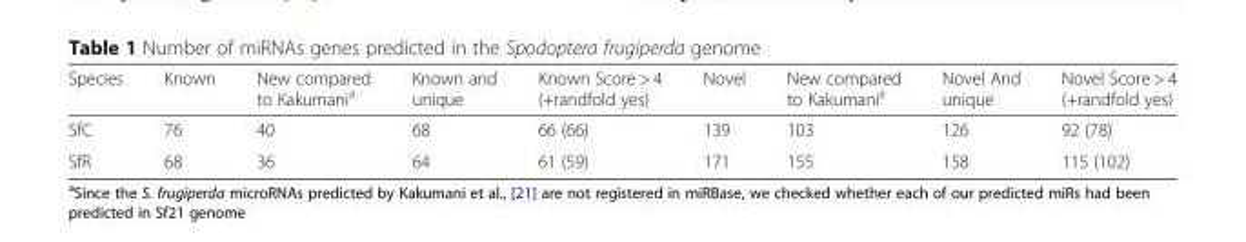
<table><thead><tr><td>Species</td><td>Known</td><td>New compared to Kakumani<sup>a</sup></td><td>Known and unique</td><td>Known Score &gt; 4 (+randfold yes)</td><td>Novel</td><td>New compared to Kakumani<sup>a</sup></td><td>Novel And unique</td><td>Novel Score &gt; 4 (+randfold yes)</td></tr></thead><tbody><tr><td>SfC</td><td>76</td><td>40</td><td>68</td><td>66 (66)</td><td>139</td><td>103</td><td>126</td><td>92 (78)</td></tr><tr><td>SfR</td><td>68</td><td>36</td><td>64</td><td>61 (59)</td><td>171</td><td>155</td><td>158</td><td>115 (102)</td></tr></tbody></table>